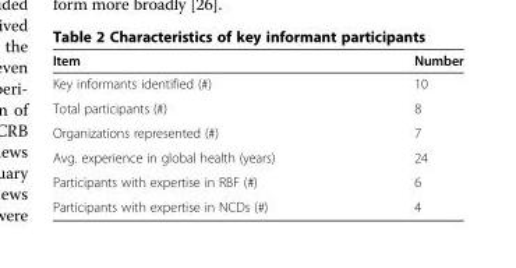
<table><thead><tr><td>Item</td><td>Number</td></tr></thead><tbody><tr><td>Key informants identified (#)</td><td>10</td></tr><tr><td>Total participants (#)</td><td>8</td></tr><tr><td>Organizations represented (#)</td><td>7</td></tr><tr><td>Avg. experience in global health (years)</td><td>24</td></tr><tr><td>Participants with expertise in RBF (#)</td><td>6</td></tr><tr><td>Participants with expertise in NCDs (#)</td><td>4</td></tr></tbody></table>